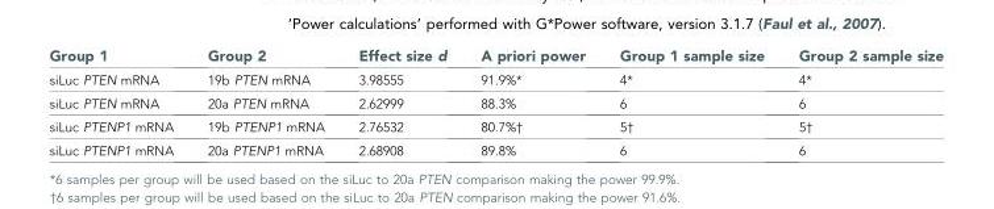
<table><thead><tr><td>Group 1</td><td>Group 2</td><td>Effect size d</td><td>A priori power</td><td>Group 1 sample size</td><td>Group 2 sample size</td></tr></thead><tbody><tr><td>siLuc PTEN mRNA</td><td>19b PTEN mRNA</td><td>3.98555</td><td>91.9%*</td><td>4*</td><td>4*</td></tr><tr><td>siLuc PTEN mRNA</td><td>20a PTEN mRNA</td><td>2.62999</td><td>88.3%</td><td>6</td><td>6</td></tr><tr><td>siLuc PTENP1 mRNA</td><td>19b PTENP1 mRNA</td><td>2.76532</td><td>80.7%†</td><td>5†</td><td>5†</td></tr><tr><td>siLuc PTENP1 mRNA</td><td>20a PTENP1 mRNA</td><td>2.68908</td><td>89.8%</td><td>6</td><td>6</td></tr></tbody></table>